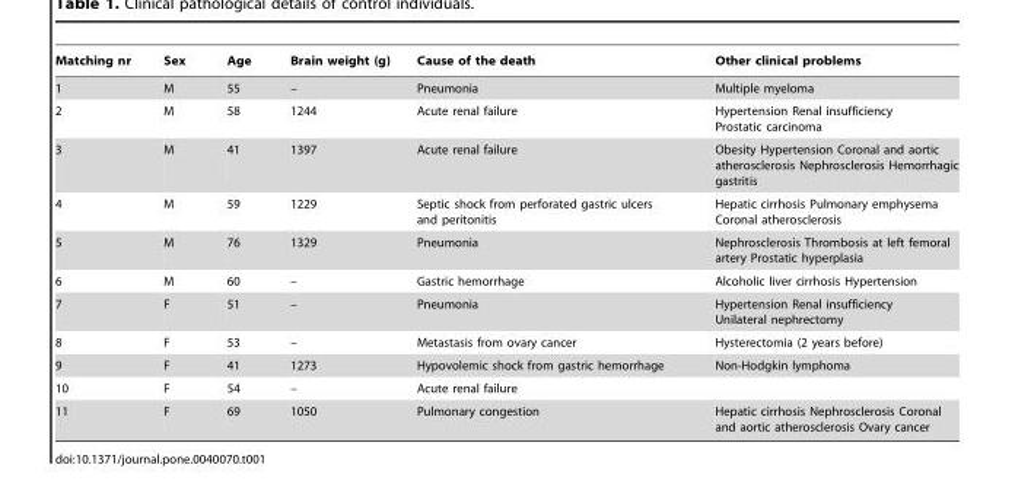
<table><thead><tr><td>Matching nr</td><td>Sex</td><td>Age</td><td>Brain weight (g)</td><td>Cause of the death</td><td>Other clinical problems</td></tr></thead><tbody><tr><td>1</td><td>M</td><td>55</td><td>–</td><td>Pneumonia</td><td>Multiple myeloma</td></tr><tr><td>2</td><td>M</td><td>58</td><td>1244</td><td>Acute renal failure</td><td>Hypertension Renal insufficiency Prostatic carcinoma</td></tr><tr><td>3</td><td>M</td><td>41</td><td>1397</td><td>Acute renal failure</td><td>Obesity Hypertension Coronal and aortic atherosclerosis Nephrosclerosis Hemorrhagic gastritis</td></tr><tr><td>4</td><td>M</td><td>59</td><td>1229</td><td>Septic shock from perforated gastric ulcers and peritonitis</td><td>Hepatic cirrhosis Pulmonary emphysema Coronal atherosclerosis</td></tr><tr><td>5</td><td>M</td><td>76</td><td>1329</td><td>Pneumonia</td><td>Nephrosclerosis Thrombosis at left femoral artery Prostatic hyperplasia</td></tr><tr><td>6</td><td>M</td><td>60</td><td>–</td><td>Gastric hemorrhage</td><td>Alcoholic liver cirrhosis Hypertension</td></tr><tr><td>7</td><td>F</td><td>51</td><td>–</td><td>Pneumonia</td><td>Hypertension Renal insufficiency Unilateral nephrectomy</td></tr><tr><td>8</td><td>F</td><td>53</td><td>–</td><td>Metastasis from ovary cancer</td><td>Hysterectomia (2 years before)</td></tr><tr><td>9</td><td>F</td><td>41</td><td>1273</td><td>Hypovolemic shock from gastric hemorrhage</td><td>Non-Hodgkin lymphoma</td></tr><tr><td>10</td><td>F</td><td>54</td><td>–</td><td>Acute renal failure</td><td></td></tr><tr><td>11</td><td>F</td><td>69</td><td>1050</td><td>Pulmonary congestion</td><td>Hepatic cirrhosis Nephrosclerosis Coronal and aortic atherosclerosis Ovary cancer</td></tr></tbody></table>